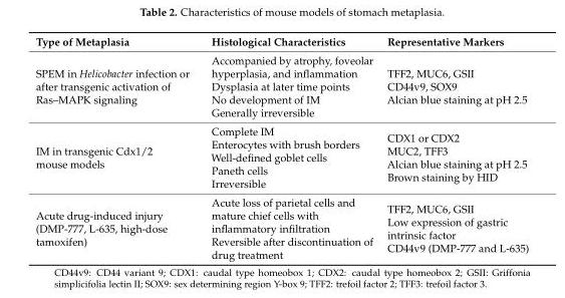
<table><thead><tr><td>Type of Metaplasia</td><td>Histological Characteristics</td><td>Representative Markers</td></tr></thead><tbody><tr><td>SPEM in Helicobacter infection or after transgenic activation of Ras–MAPK signaling</td><td>Accompanied by atrophy, foveolar hyperplasia, and inflammation Dysplasia at later time points No development of IM Generally irreversible</td><td>TFF2, MUC6, GSII CD44v9, SOX9 Alcian blue staining at pH 2.5</td></tr><tr><td>IM in transgenic Cdx1/2 mouse models</td><td>Complete IM Enterocytes with brush borders Well-defined goblet cells Paneth cells Irreversible</td><td>CDX1 or CDX2 MUC2, TFF3 Alcian blue staining at pH 2.5 Brown staining by HID</td></tr><tr><td>Acute drug-induced injury (DMP-777, L-635, high-dose tamoxifen)</td><td>Acute loss of parietal cells and mature chief cells with inflammatory infiltration Reversible after discontinuation of drug treatment</td><td>TFF2, MUC6, GSII Low expression of gastric intrinsic factor CD44v9 (DMP-777 and L-635)</td></tr></tbody></table>